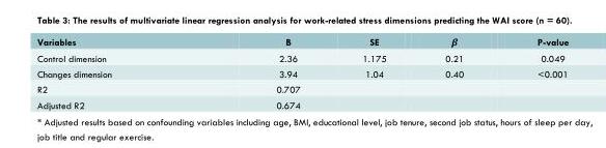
<table><thead><tr><td>Variables</td><td>B</td><td>SE</td><td></td><td>P-value</td></tr></thead><tbody><tr><td>Control dimension</td><td>2.36</td><td>1.175</td><td>0.21</td><td>0.049</td></tr><tr><td>Changes dimension</td><td>3.94</td><td>1.04</td><td>0.40</td><td>&lt;0.001</td></tr><tr><td>R2</td><td>0.707</td><td></td><td></td><td></td></tr><tr><td>Adjusted R2</td><td>0.674</td><td></td><td></td><td></td></tr></tbody></table>